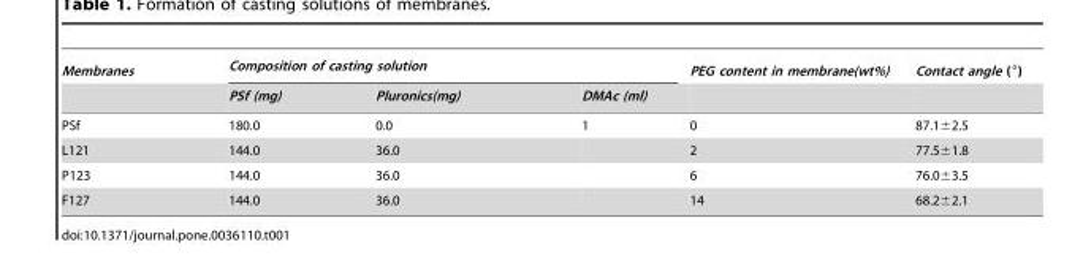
<table><thead><tr><td rowspan="2">Membranes</td><td colspan="3">Composition of casting solution</td><td rowspan="2">PEG content in membrane(wt%)</td><td rowspan="2">Contact angle (°)</td></tr><tr><td>PSf (mg)</td><td>Pluronics(mg)</td><td>DMAc (ml)</td></tr></thead><tbody><tr><td>PSf</td><td>180.0</td><td>0.0</td><td>1</td><td>0</td><td>87.1±2.5</td></tr><tr><td>L121</td><td>144.0</td><td>36.0</td><td></td><td>2</td><td>77.5±1.8</td></tr><tr><td>P123</td><td>144.0</td><td>36.0</td><td></td><td>6</td><td>76.0±3.5</td></tr><tr><td>F127</td><td>144.0</td><td>36.0</td><td></td><td>14</td><td>68.2±2.1</td></tr></tbody></table>